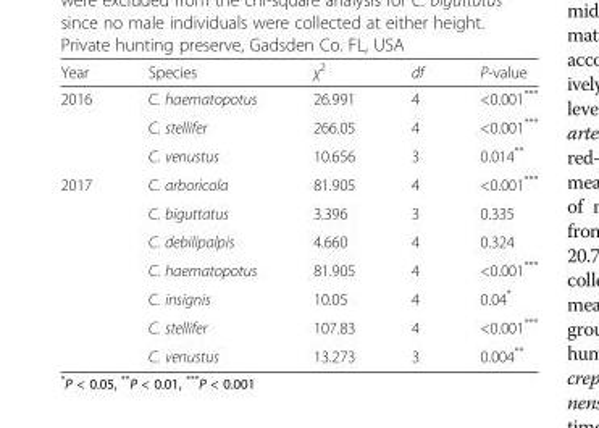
<table><thead><tr><td>Year</td><td>Species</td><td>χ<sup>2</sup></td><td>df</td><td>P-value</td></tr></thead><tbody><tr><td rowspan="3">2016</td><td>C. haematopotus</td><td>26.991</td><td>4</td><td>&lt;0.001***</td></tr><tr><td>C. stellifer</td><td>266.05</td><td>4</td><td>&lt;0.001***</td></tr><tr><td>C. venustus</td><td>10.656</td><td>3</td><td>0.014**</td></tr><tr><td rowspan="7">2017</td><td>C. arboricola</td><td>81.905</td><td>4</td><td>&lt;0.001***</td></tr><tr><td>C. biguttatus</td><td>3.396</td><td>3</td><td>0.335</td></tr><tr><td>C. debilipalpis</td><td>4.660</td><td>4</td><td>0.324</td></tr><tr><td>C. haematopotus</td><td>81.905</td><td>4</td><td>&lt;0.001***</td></tr><tr><td>C. insignis</td><td>10.05</td><td>4</td><td>0.04*</td></tr><tr><td>C. stellifer</td><td>107.83</td><td>4</td><td>&lt;0.001***</td></tr><tr><td>C. venustus</td><td>13.273</td><td>3</td><td>0.004**</td></tr></tbody></table>